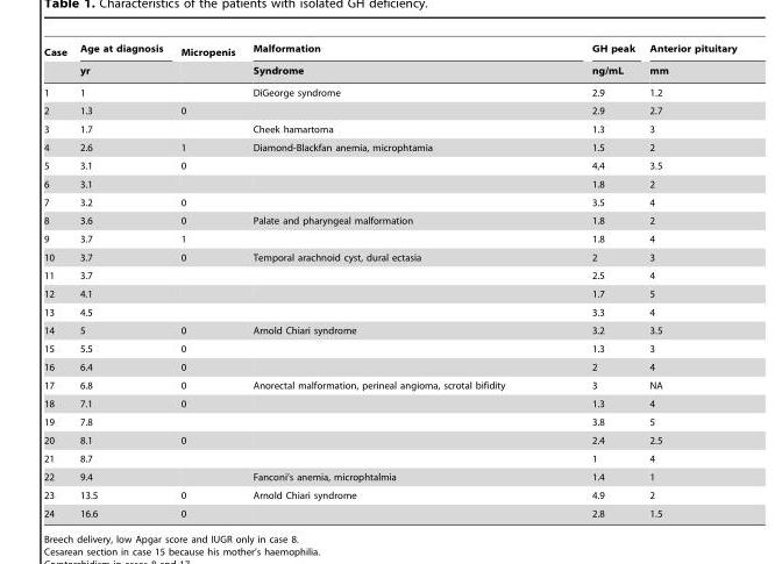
<table><thead><tr><td rowspan="2">Case</td><td rowspan="2">Age at diagnosis yr</td><td rowspan="2">Micropenis</td><td rowspan="2">Malformation Syndrome</td><td rowspan="2">GH peak ng/mL</td><td rowspan="2">Anterior pituitary mm</td></tr><tr></tr></thead><tbody><tr><td>1</td><td>1</td><td></td><td>DiGeorge syndrome</td><td>2.9</td><td>1.2</td></tr><tr><td>2</td><td>1.3</td><td>0</td><td></td><td>2.9</td><td>2.7</td></tr><tr><td>3</td><td>1.7</td><td></td><td>Cheek hamartoma</td><td>1.3</td><td>3</td></tr><tr><td>4</td><td>2.6</td><td>1</td><td>Diamond-Blackfan anemia, microphtamia</td><td>1.5</td><td>2</td></tr><tr><td>5</td><td>3.1</td><td>0</td><td></td><td>4,4</td><td>3.5</td></tr><tr><td>6</td><td>3.1</td><td></td><td></td><td>1.8</td><td>2</td></tr><tr><td>7</td><td>3.2</td><td>0</td><td></td><td>3.5</td><td>4</td></tr><tr><td>8</td><td>3.6</td><td>0</td><td>Palate and pharyngeal malformation</td><td>1.8</td><td>2</td></tr><tr><td>9</td><td>3.7</td><td>1</td><td></td><td>1.8</td><td>4</td></tr><tr><td>10</td><td>3.7</td><td>0</td><td>Temporal arachnoid cyst, dural ectasia</td><td>2</td><td>3</td></tr><tr><td>11</td><td>3.7</td><td></td><td></td><td>2.5</td><td>4</td></tr><tr><td>12</td><td>4.1</td><td></td><td></td><td>1.7</td><td>5</td></tr><tr><td>13</td><td>4.5</td><td></td><td></td><td>3.3</td><td>4</td></tr><tr><td>14</td><td>5</td><td>0</td><td>Arnold Chiari syndrome</td><td>3.2</td><td>3.5</td></tr><tr><td>15</td><td>5.5</td><td>0</td><td></td><td>1.3</td><td>3</td></tr><tr><td>16</td><td>6.4</td><td>0</td><td></td><td>2</td><td>4</td></tr><tr><td>17</td><td>6.8</td><td>0</td><td>Anorectal malformation, perineal angioma, scrotal bifidity</td><td>3</td><td>NA</td></tr><tr><td>18</td><td>7.1</td><td>0</td><td></td><td>1.3</td><td>4</td></tr><tr><td>19</td><td>7.8</td><td></td><td></td><td>3.8</td><td>5</td></tr><tr><td>20</td><td>8.1</td><td>0</td><td></td><td>2.4</td><td>2.5</td></tr><tr><td>21</td><td>8.7</td><td></td><td></td><td>1</td><td>4</td></tr><tr><td>22</td><td>9.4</td><td></td><td>Fanconi’s anemia, microphtalmia</td><td>1.4</td><td>1</td></tr><tr><td>23</td><td>13.5</td><td>0</td><td>Arnold Chiari syndrome</td><td>4.9</td><td>2</td></tr><tr><td>24</td><td>16.6</td><td>0</td><td></td><td>2.8</td><td>1.5</td></tr></tbody></table>